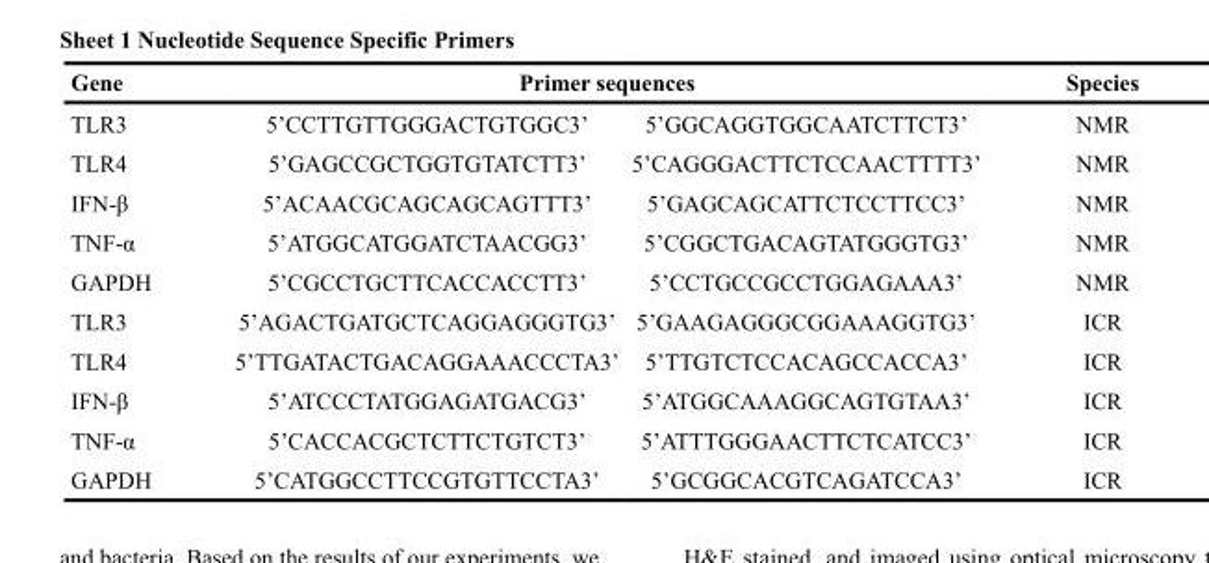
<table><thead><tr><td rowspan="2">Gene TLR3</td><td colspan="2">Primer sequences</td><td rowspan="2">Species NMR</td></tr><tr><td>5’CCTTGTTGGGACTGTGGC3’</td><td>5’GGCAGGTGGCAATCTTCT3’</td></tr></thead><tbody><tr><td>TLR4</td><td>5’GAGCCGCTGGTGTATCTT3’</td><td>5’CAGGGACTTCTCCAACTTTT3’</td><td>NMR</td></tr><tr><td>IFN-β</td><td>5’ACAACGCAGCAGCAGTTT3’</td><td>5’GAGCAGCATTCTCCTTCC3’</td><td>NMR</td></tr><tr><td>TNF-α</td><td>5’ATGGCATGGATCTAACGG3’</td><td>5’CGGCTGACAGTATGGGTG3’</td><td>NMR</td></tr><tr><td>GAPDH</td><td>5’CGCCTGCTTCACCACCTT3’</td><td>5’CCTGCCGCCTGGAGAAA3’</td><td>NMR</td></tr><tr><td>TLR3</td><td>5’AGACTGATGCTCAGGAGGGTG3’</td><td>5’GAAGAGGGCGGAAAGGTG3’</td><td>ICR</td></tr><tr><td>TLR4</td><td>5’TTGATACTGACAGGAAACCCTA3’</td><td>5’TTGTCTCCACAGCCACCA3’</td><td>ICR</td></tr><tr><td>IFN-β</td><td>5’ATCCCTATGGAGATGACG3’</td><td>5’ATGGCAAAGGCAGTGTAA3’</td><td>ICR</td></tr><tr><td>TNF-α</td><td>5’CACCACGCTCTTCTGTCT3’</td><td>5’ATTTGGGAACTTCTCATCC3’</td><td>ICR</td></tr><tr><td>GAPDH</td><td>5’CATGGCCTTCCGTGTTCCTA3’</td><td>5’GCGGCACGTCAGATCCA3’</td><td>ICR</td></tr></tbody></table>